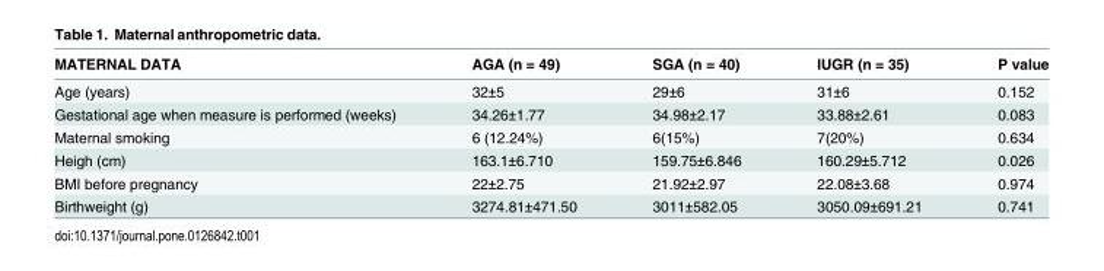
<table><thead><tr><td>MATERNAL DATA</td><td>AGA (n = 49)</td><td>SGA (n = 40)</td><td>IUGR (n = 35)</td><td>P value</td></tr></thead><tbody><tr><td>Age (years)</td><td>32±5</td><td>29±6</td><td>31±6</td><td>0.152</td></tr><tr><td>Gestational age when measure is performed (weeks)</td><td>34.26±1.77</td><td>34.98±2.17</td><td>33.88±2.61</td><td>0.083</td></tr><tr><td>Maternal smoking</td><td>6 (12.24%)</td><td>6(15%)</td><td>7(20%)</td><td>0.634</td></tr><tr><td>Heigh (cm)</td><td>163.1±6.710</td><td>159.75±6.846</td><td>160.29±5.712</td><td>0.026</td></tr><tr><td>BMI before pregnancy</td><td>22±2.75</td><td>21.92±2.97</td><td>22.08±3.68</td><td>0.974</td></tr><tr><td>Birthweight (g)</td><td>3274.81±471.50</td><td>3011±582.05</td><td>3050.09±691.21</td><td>0.741</td></tr></tbody></table>